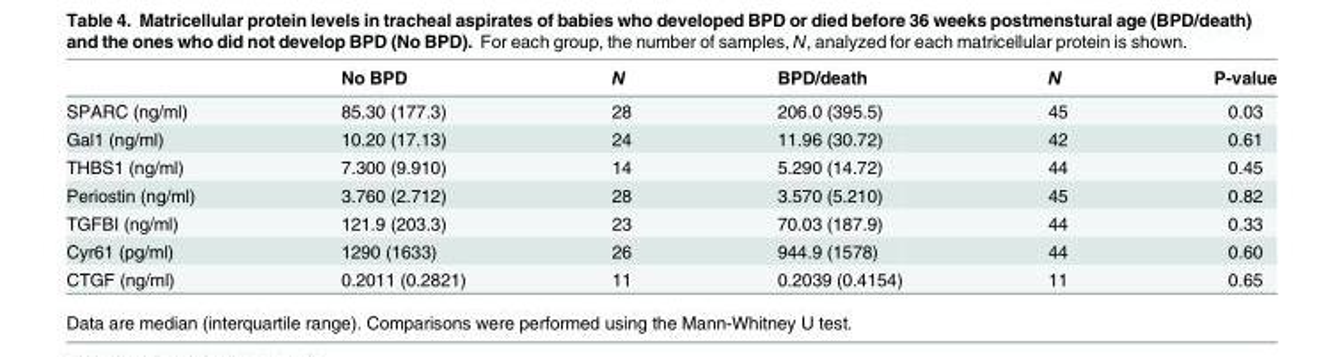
<table><thead><tr><td></td><td>No BPD</td><td>N</td><td>BPD/death</td><td>N</td><td>P-value</td></tr></thead><tbody><tr><td>SPARC (ng/ml)</td><td>85.30 (177.3)</td><td>28</td><td>206.0 (395.5)</td><td>45</td><td>0.03</td></tr><tr><td>Gal1 (ng/ml)</td><td>10.20 (17.13)</td><td>24</td><td>11.96 (30.72)</td><td>42</td><td>0.61</td></tr><tr><td>THBS1 (ng/ml)</td><td>7.300 (9.910)</td><td>14</td><td>5.290 (14.72)</td><td>44</td><td>0.45</td></tr><tr><td>Periostin (ng/ml)</td><td>3.760 (2.712)</td><td>28</td><td>3.570 (5.210)</td><td>45</td><td>0.82</td></tr><tr><td>TGFBI (ng/ml)</td><td>121.9 (203.3)</td><td>23</td><td>70.03 (187.9)</td><td>44</td><td>0.33</td></tr><tr><td>Cyr61 (pg/ml)</td><td>1290 (1633)</td><td>26</td><td>944.9 (1578)</td><td>44</td><td>0.60</td></tr><tr><td>CTGF (ng/ml)</td><td>0.2011 (0.2821)</td><td>11</td><td>0.2039 (0.4154)</td><td>11</td><td>0.65</td></tr></tbody></table>